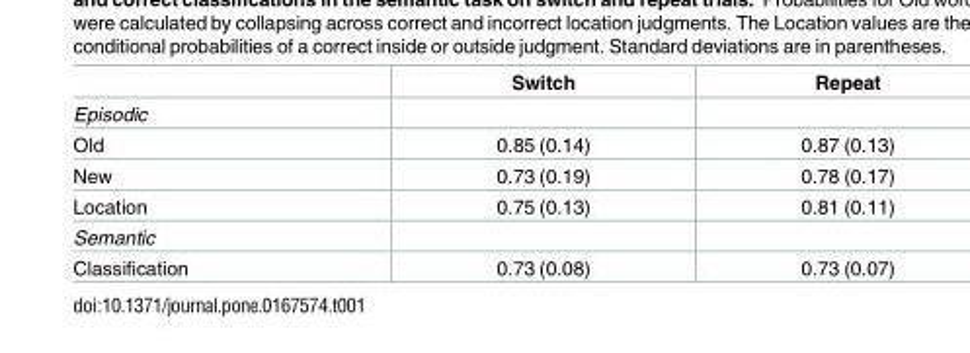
<table><thead><tr><td></td><td>Switch</td><td>Repeat</td></tr></thead><tbody><tr><td colspan="3">Episodic</td></tr><tr><td>Old</td><td>0.85 (0.14)</td><td>0.87 (0.13)</td></tr><tr><td>New</td><td>0.73 (0.19)</td><td>0.78 (0.17)</td></tr><tr><td>Location</td><td>0.75 (0.13)</td><td>0.81 (0.11)</td></tr><tr><td colspan="3">Semantic</td></tr><tr><td>Classification</td><td>0.73 (0.08)</td><td>0.73 (0.07)</td></tr></tbody></table>